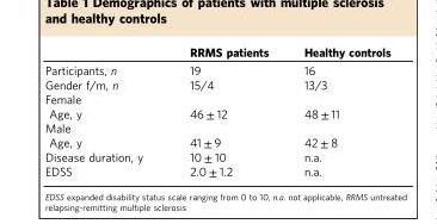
<table><thead><tr><td></td><td>RRMS patients</td><td>Healthy controls</td></tr></thead><tbody><tr><td>Participants, n</td><td>19</td><td>16</td></tr><tr><td>Gender f/m, n</td><td>15/4</td><td>13/3</td></tr><tr><td colspan="3">Female</td></tr><tr><td>Age, y</td><td>46 ± 12</td><td>48 ± 11</td></tr><tr><td colspan="3">Male</td></tr><tr><td>Age, y</td><td>41 ± 9</td><td>42 ± 8</td></tr><tr><td>Disease duration, y</td><td>10 ± 10</td><td>n.a.</td></tr><tr><td>EDSS</td><td>2.0 ± 1.2</td><td>n.a.</td></tr></tbody></table>